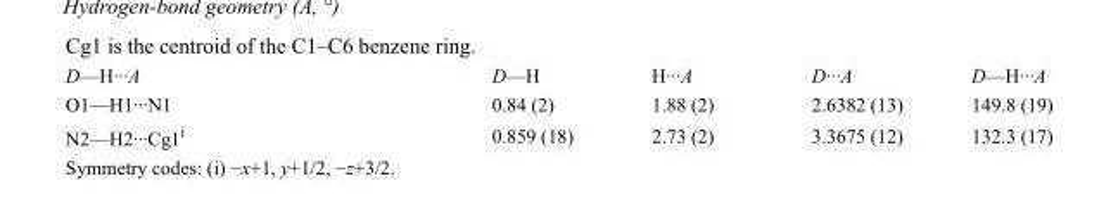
<table><tbody><tr><td>D—H···A</td><td>D—H</td><td>H···A</td><td>D···A</td><td>D—H···A</td></tr><tr><td>O1—H1···N1</td><td>0.84 (2)</td><td>1.88 (2)</td><td>2.6382 (13)</td><td>149.8 (19)</td></tr><tr><td>N2—H2···Cg1<sup>i</sup></td><td>0.859 (18)</td><td>2.73 (2)</td><td>3.3675 (12)</td><td>132.3 (17)</td></tr></tbody></table>